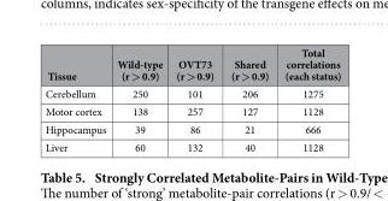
<table><thead><tr><td>Tissue</td><td>Wild-type (r &gt; 0.9)</td><td>OVT73 (r &gt; 0.9)</td><td>Shared (r &gt; 0.9)</td><td>Total correlations (each status)</td></tr></thead><tbody><tr><td>Cerebellum</td><td>250</td><td>101</td><td>206</td><td>1275</td></tr><tr><td>Motor cortex</td><td>138</td><td>257</td><td>127</td><td>1128</td></tr><tr><td>Hippocampus</td><td>39</td><td>86</td><td>21</td><td>666</td></tr><tr><td>Liver</td><td>60</td><td>132</td><td>40</td><td>1128</td></tr></tbody></table>